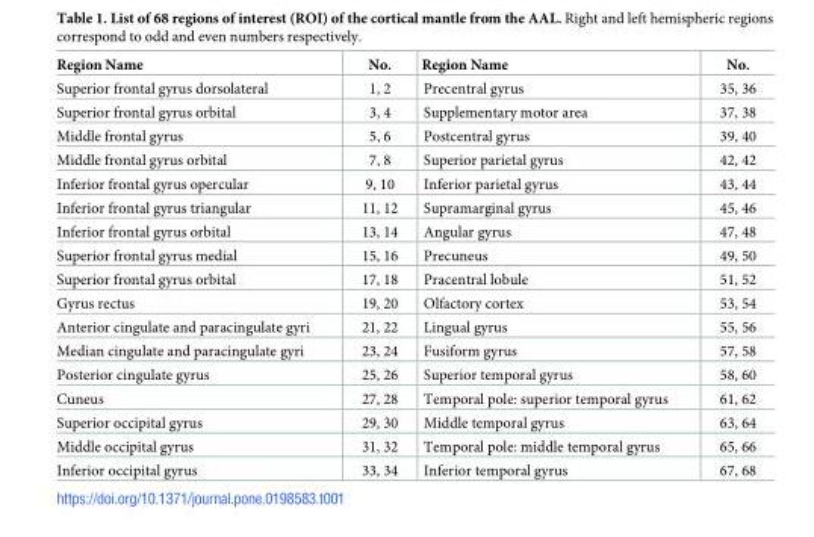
<table><thead><tr><td>Region Name</td><td>No.</td><td>Region Name</td><td>No.</td></tr></thead><tbody><tr><td>Superior frontal gyrus dorsolateral</td><td>1, 2</td><td>Precentral gyrus</td><td>35, 36</td></tr><tr><td>Superior frontal gyrus orbital</td><td>3, 4</td><td>Supplementary motor area</td><td>37, 38</td></tr><tr><td>Middle frontal gyrus</td><td>5, 6</td><td>Postcentral gyrus</td><td>39, 40</td></tr><tr><td>Middle frontal gyrus orbital</td><td>7, 8</td><td>Superior parietal gyrus</td><td>42, 42</td></tr><tr><td>Inferior frontal gyrus opercular</td><td>9, 10</td><td>Inferior parietal gyrus</td><td>43, 44</td></tr><tr><td>Inferior frontal gyrus triangular</td><td>11, 12</td><td>Supramarginal gyrus</td><td>45, 46</td></tr><tr><td>Inferior frontal gyrus orbital</td><td>13, 14</td><td>Angular gyrus</td><td>47, 48</td></tr><tr><td>Superior frontal gyrus medial</td><td>15, 16</td><td>Precuneus</td><td>49, 50</td></tr><tr><td>Superior frontal gyrus orbital</td><td>17, 18</td><td>Pracentral lobule</td><td>51, 52</td></tr><tr><td>Gyrus rectus</td><td>19, 20</td><td>Olfactory cortex</td><td>53, 54</td></tr><tr><td>Anterior cingulate and paracingulate gyri</td><td>21, 22</td><td>Lingual gyrus</td><td>55, 56</td></tr><tr><td>Median cingulate and paracingulate gyri</td><td>23, 24</td><td>Fusiform gyrus</td><td>57, 58</td></tr><tr><td>Posterior cingulate gyrus</td><td>25, 26</td><td>Superior temporal gyrus</td><td>58, 60</td></tr><tr><td>Cuneus</td><td>27, 28</td><td>Temporal pole: superior temporal gyrus</td><td>61, 62</td></tr><tr><td>Superior occipital gyrus</td><td>29, 30</td><td>Middle temporal gyrus</td><td>63, 64</td></tr><tr><td>Middle occipital gyrus</td><td>31, 32</td><td>Temporal pole: middle temporal gyrus</td><td>65, 66</td></tr><tr><td>Inferior occipital gyrus</td><td>33, 34</td><td>Inferior temporal gyrus</td><td>67, 68</td></tr></tbody></table>